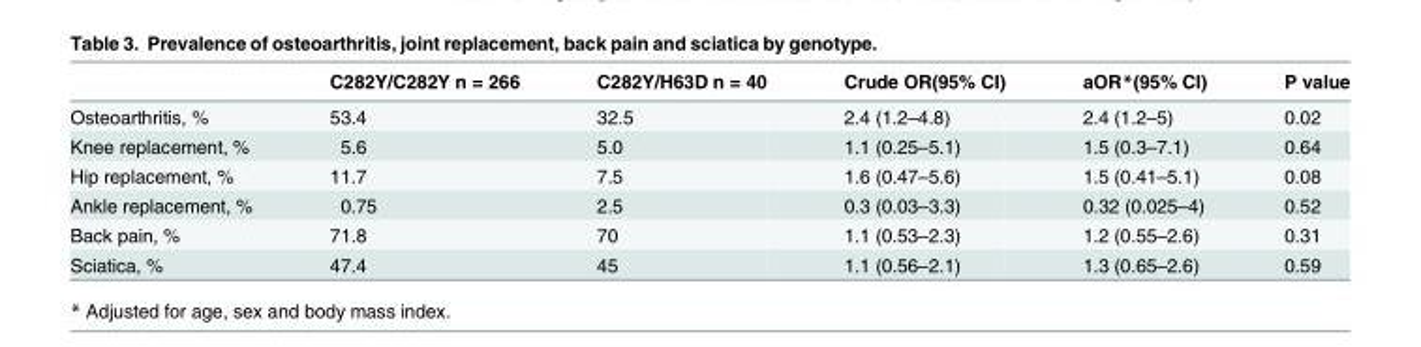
<table><thead><tr><td></td><td>C282Y/C282Y n = 266</td><td>C282Y/H63D n = 40</td><td>Crude OR(95% CI)</td><td>aOR*(95% CI)</td><td>P value</td></tr></thead><tbody><tr><td>Osteoarthritis, %</td><td>53.4</td><td>32.5</td><td>2.4 (1.2–4.8)</td><td>2.4 (1.2–5)</td><td>0.02</td></tr><tr><td>Knee replacement, %</td><td>5.6</td><td>5.0</td><td>1.1 (0.25–5.1)</td><td>1.5 (0.3–7.1)</td><td>0.64</td></tr><tr><td>Hip replacement, %</td><td>11.7</td><td>7.5</td><td>1.6 (0.47–5.6)</td><td>1.5 (0.41–5.1)</td><td>0.08</td></tr><tr><td>Ankle replacement, %</td><td>0.75</td><td>2.5</td><td>0.3 (0.03–3.3)</td><td>0.32 (0.025–4)</td><td>0.52</td></tr><tr><td>Back pain, %</td><td>71.8</td><td>70</td><td>1.1 (0.53–2.3)</td><td>1.2 (0.55–2.6)</td><td>0.31</td></tr><tr><td>Sciatica, %</td><td>47.4</td><td>45</td><td>1.1 (0.56–2.1)</td><td>1.3 (0.65–2.6)</td><td>0.59</td></tr></tbody></table>